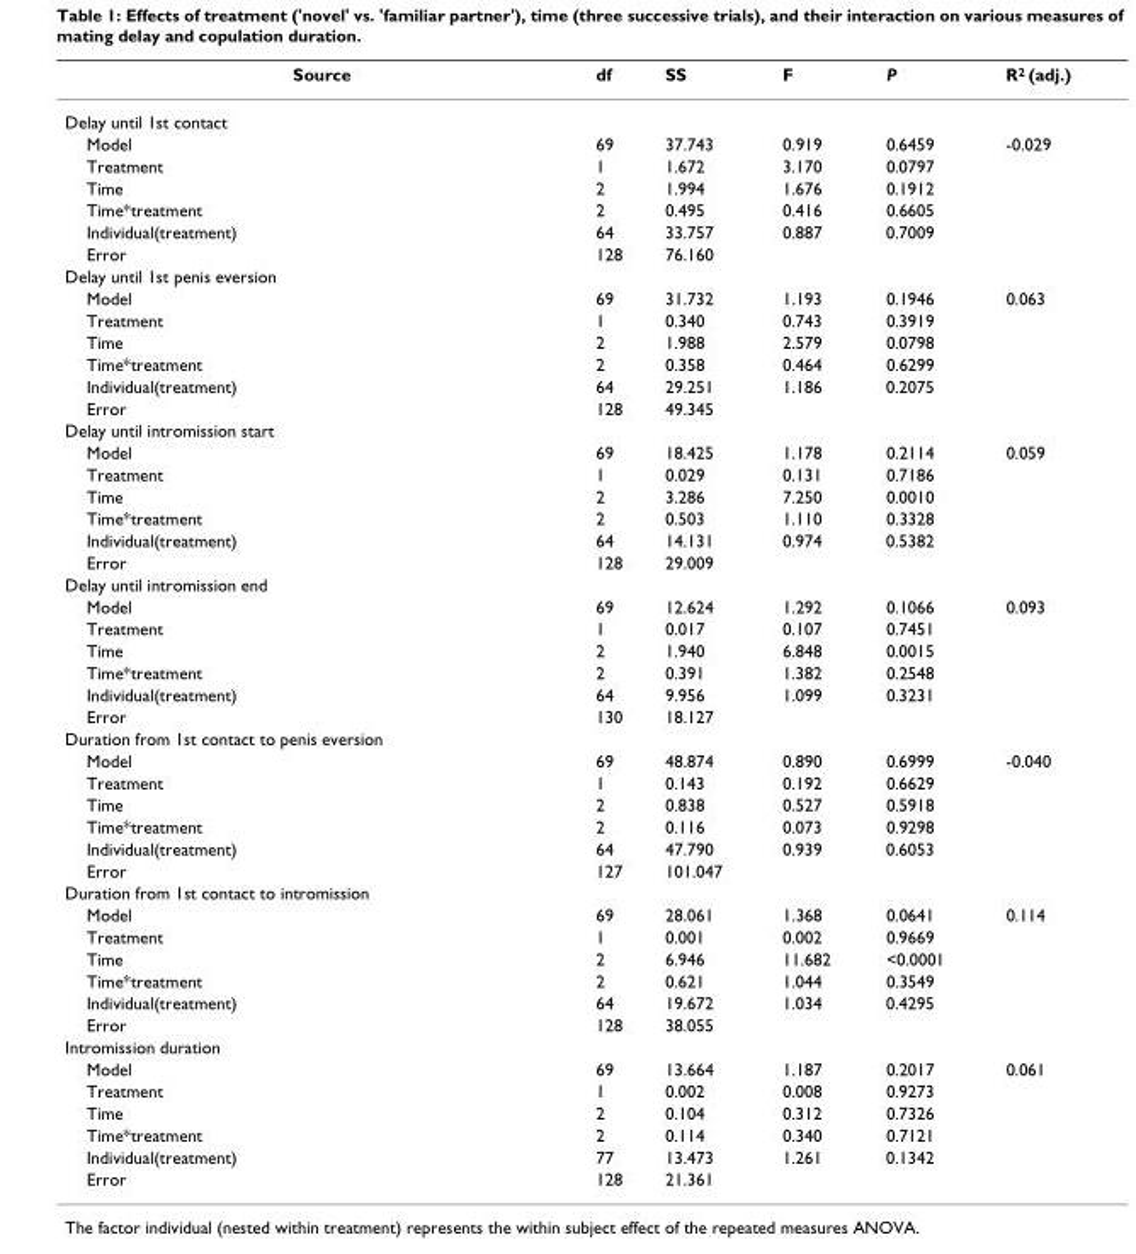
<table><thead><tr><td>Source</td><td>df</td><td>SS</td><td>F</td><td>P</td><td>R<sup>2</sup> (adj.)</td></tr></thead><tbody><tr><td colspan="6">Delay until 1st contact</td></tr><tr><td>Model</td><td>69</td><td>37.743</td><td>0.919</td><td>0.6459</td><td>-0.029</td></tr><tr><td>Treatment</td><td>1</td><td>1.672</td><td>3.170</td><td>0.0797</td><td></td></tr><tr><td>Time</td><td>2</td><td>1.994</td><td>1.676</td><td>0.1912</td><td></td></tr><tr><td>Time*treatment</td><td>2</td><td>0.495</td><td>0.416</td><td>0.6605</td><td></td></tr><tr><td>Individual(treatment)</td><td>64</td><td>33.757</td><td>0.887</td><td>0.7009</td><td></td></tr><tr><td>Error</td><td>128</td><td>76.160</td><td></td><td></td><td></td></tr><tr><td colspan="6">Delay until 1st penis eversion</td></tr><tr><td>Model</td><td>69</td><td>31.732</td><td>1.193</td><td>0.1946</td><td>0.063</td></tr><tr><td>Treatment</td><td>1</td><td>0.340</td><td>0.743</td><td>0.3919</td><td></td></tr><tr><td>Time</td><td>2</td><td>1.988</td><td>2.579</td><td>0.0798</td><td></td></tr><tr><td>Time*treatment</td><td>2</td><td>0.358</td><td>0.464</td><td>0.6299</td><td></td></tr><tr><td>Individual(treatment)</td><td>64</td><td>29.251</td><td>1.186</td><td>0.2075</td><td></td></tr><tr><td>Error</td><td>128</td><td>49.345</td><td></td><td></td><td></td></tr><tr><td colspan="6">Delay until intromission start</td></tr><tr><td>Model</td><td>69</td><td>18.425</td><td>1.178</td><td>0.2114</td><td>0.059</td></tr><tr><td>Treatment</td><td>1</td><td>0.029</td><td>0.131</td><td>0.7186</td><td></td></tr><tr><td>Time</td><td>2</td><td>3.286</td><td>7.250</td><td>0.0010</td><td></td></tr><tr><td>Time*treatment</td><td>2</td><td>0.503</td><td>1.110</td><td>0.3328</td><td></td></tr><tr><td>Individual(treatment)</td><td>64</td><td>14.131</td><td>0.974</td><td>0.5382</td><td></td></tr><tr><td>Error</td><td>128</td><td>29.009</td><td></td><td></td><td></td></tr><tr><td colspan="6">Delay until intromission end</td></tr><tr><td>Model</td><td>69</td><td>12.624</td><td>1.292</td><td>0.1066</td><td>0.093</td></tr><tr><td>Treatment</td><td>1</td><td>0.017</td><td>0.107</td><td>0.7451</td><td></td></tr><tr><td>Time</td><td>2</td><td>1.940</td><td>6.848</td><td>0.0015</td><td></td></tr><tr><td>Time*treatment</td><td>2</td><td>0.391</td><td>1.382</td><td>0.2548</td><td></td></tr><tr><td>Individual(treatment)</td><td>64</td><td>9.956</td><td>1.099</td><td>0.3231</td><td></td></tr><tr><td>Error</td><td>130</td><td>18.127</td><td></td><td></td><td></td></tr><tr><td colspan="6">Duration from 1st contact to penis eversion</td></tr><tr><td>Model</td><td>69</td><td>48.874</td><td>0.890</td><td>0.6999</td><td>-0.040</td></tr><tr><td>Treatment</td><td>1</td><td>0.143</td><td>0.192</td><td>0.6629</td><td></td></tr><tr><td>Time</td><td>2</td><td>0.838</td><td>0.527</td><td>0.5918</td><td></td></tr><tr><td>Time*treatment</td><td>2</td><td>0.116</td><td>0.073</td><td>0.9298</td><td></td></tr><tr><td>Individual(treatment)</td><td>64</td><td>47.790</td><td>0.939</td><td>0.6053</td><td></td></tr><tr><td>Error</td><td>127</td><td>101.047</td><td></td><td></td><td></td></tr><tr><td colspan="6">Duration from 1st contact to intromission</td></tr><tr><td>Model</td><td>69</td><td>28.061</td><td>1.368</td><td>0.0641</td><td>0.114</td></tr><tr><td>Treatment</td><td>1</td><td>0.001</td><td>0.002</td><td>0.9669</td><td></td></tr><tr><td>Time</td><td>2</td><td>6.946</td><td>11.682</td><td>&lt;0.0001</td><td></td></tr><tr><td>Time*treatment</td><td>2</td><td>0.621</td><td>1.044</td><td>0.3549</td><td></td></tr><tr><td>Individual(treatment)</td><td>64</td><td>19.672</td><td>1.034</td><td>0.4295</td><td></td></tr><tr><td>Error</td><td>128</td><td>38.055</td><td></td><td></td><td></td></tr><tr><td colspan="6">Intromission duration</td></tr><tr><td>Model</td><td>69</td><td>13.664</td><td>1.187</td><td>0.2017</td><td>0.061</td></tr><tr><td>Treatment</td><td>1</td><td>0.002</td><td>0.008</td><td>0.9273</td><td></td></tr><tr><td>Time</td><td>2</td><td>0.104</td><td>0.312</td><td>0.7326</td><td></td></tr><tr><td>Time*treatment</td><td>2</td><td>0.114</td><td>0.340</td><td>0.7121</td><td></td></tr><tr><td>Individual(treatment)</td><td>77</td><td>13.473</td><td>1.261</td><td>0.1342</td><td></td></tr><tr><td>Error</td><td>128</td><td>21.361</td><td></td><td></td><td></td></tr></tbody></table>